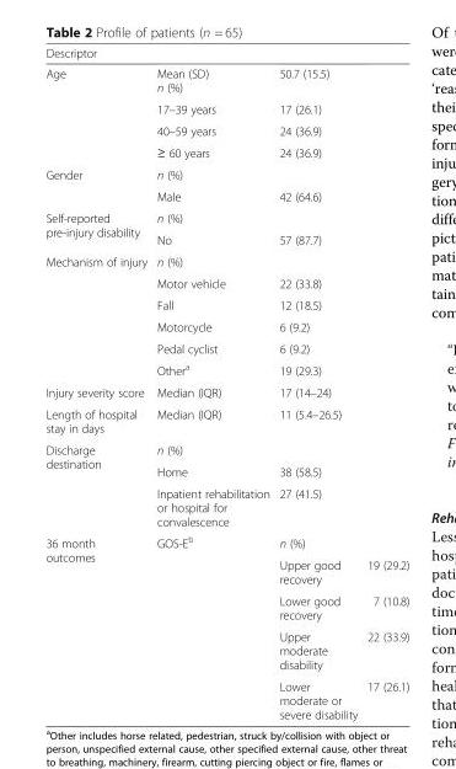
<table><thead><tr><td>Descriptor</td><td></td><td></td><td></td></tr></thead><tbody><tr><td rowspan="4">Age</td><td>Mean (SD) n (%)</td><td>50.7 (15.5)</td><td></td></tr><tr><td>17–39 years</td><td>17 (26.1)</td><td></td></tr><tr><td>40–59 years</td><td>24 (36.9)</td><td></td></tr><tr><td>≥ 60 years</td><td>24 (36.9)</td><td></td></tr><tr><td rowspan="2">Gender</td><td>n (%)</td><td></td><td></td></tr><tr><td>Male</td><td>42 (64.6)</td><td></td></tr><tr><td rowspan="2">Self-reported pre-injury disability</td><td>n (%)</td><td></td><td></td></tr><tr><td>No</td><td>57 (87.7)</td><td></td></tr><tr><td rowspan="6">Mechanism of injury</td><td>n (%)</td><td></td><td></td></tr><tr><td>Motor vehicle</td><td>22 (33.8)</td><td></td></tr><tr><td>Fall</td><td>12 (18.5)</td><td></td></tr><tr><td>Motorcycle</td><td>6 (9.2)</td><td></td></tr><tr><td>Pedal cyclist</td><td>6 (9.2)</td><td></td></tr><tr><td>Other<sup>a</sup></td><td>19 (29.3)</td><td></td></tr><tr><td>Injury severity score</td><td>Median (IQR)</td><td>17 (14–24)</td><td></td></tr><tr><td>Length of hospital stay in days</td><td>Median (IQR)</td><td>11 (5.4–26.5)</td><td></td></tr><tr><td rowspan="3">Discharge destination</td><td>n (%)</td><td></td><td></td></tr><tr><td>Home</td><td>38 (58.5)</td><td></td></tr><tr><td>Inpatient rehabilitation or hospital for convalescence</td><td>27 (41.5)</td><td></td></tr><tr><td rowspan="5">36 month outcomes</td><td>GOS-E<sup>b</sup></td><td>n (%)</td><td></td></tr><tr><td></td><td>Upper good recovery</td><td>19 (29.2)</td></tr><tr><td></td><td>Lower good recovery</td><td>7 (10.8)</td></tr><tr><td></td><td>Upper moderate disability</td><td>22 (33.9)</td></tr><tr><td></td><td>Lower moderate or severe disability</td><td>17 (26.1)</td></tr></tbody></table>